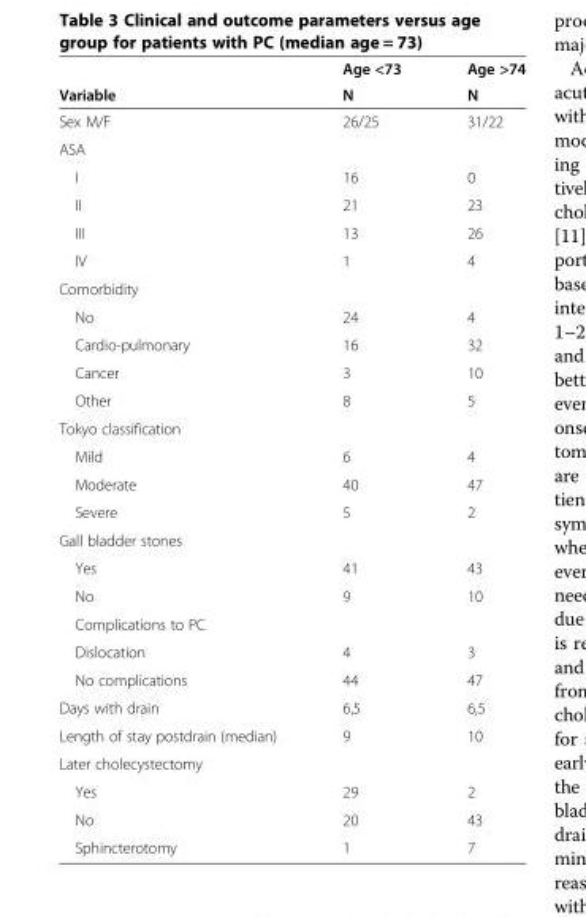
<table><thead><tr><td rowspan="2">Variable</td><td rowspan="2">Age &lt;73 N</td><td rowspan="2">Age &gt;74 N</td></tr><tr></tr></thead><tbody><tr><td>Sex M/F</td><td>26/25</td><td>31/22</td></tr><tr><td colspan="3">ASA</td></tr><tr><td>I</td><td>16</td><td>0</td></tr><tr><td>II</td><td>21</td><td>23</td></tr><tr><td>III</td><td>13</td><td>26</td></tr><tr><td>IV</td><td>1</td><td>4</td></tr><tr><td colspan="3">Comorbidity</td></tr><tr><td>No</td><td>24</td><td>4</td></tr><tr><td>Cardio-pulmonary</td><td>16</td><td>32</td></tr><tr><td>Cancer</td><td>3</td><td>10</td></tr><tr><td>Other</td><td>8</td><td>5</td></tr><tr><td colspan="3">Tokyo classification</td></tr><tr><td>Mild</td><td>6</td><td>4</td></tr><tr><td>Moderate</td><td>40</td><td>47</td></tr><tr><td>Severe</td><td>5</td><td>2</td></tr><tr><td colspan="3">Gall bladder stones</td></tr><tr><td>Yes</td><td>41</td><td>43</td></tr><tr><td>No</td><td>9</td><td>10</td></tr><tr><td colspan="3">Complications to PC</td></tr><tr><td>Dislocation</td><td>4</td><td>3</td></tr><tr><td>No complications</td><td>44</td><td>47</td></tr><tr><td>Days with drain</td><td>6,5</td><td>6,5</td></tr><tr><td>Length of stay postdrain (median)</td><td>9</td><td>10</td></tr><tr><td colspan="3">Later cholecystectomy</td></tr><tr><td>Yes</td><td>29</td><td>2</td></tr><tr><td>No</td><td>20</td><td>43</td></tr><tr><td>Sphincterotomy</td><td>1</td><td>7</td></tr></tbody></table>